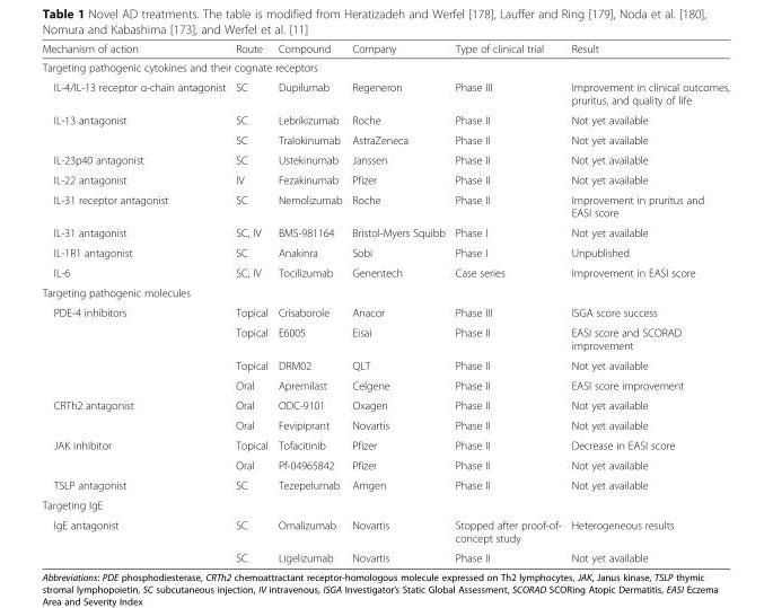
<table><thead><tr><td>Mechanism of action</td><td>Route</td><td>Compound</td><td>Company</td><td>Type of clinical trial</td><td>Result</td></tr></thead><tbody><tr><td colspan="6">Targeting pathogenic cytokines and their cognate receptors</td></tr><tr><td>IL-4/IL-13 receptor α-chain antagonist</td><td>SC</td><td>Dupilumab</td><td>Regeneron</td><td>Phase III</td><td>Improvement in clinical outcomes, pruritus, and quality of life</td></tr><tr><td rowspan="2">IL-13 antagonist</td><td>SC</td><td>Lebrikizumab</td><td>Roche</td><td>Phase II</td><td>Not yet available</td></tr><tr><td>SC</td><td>Tralokinumab</td><td>AstraZeneca</td><td>Phase II</td><td>Not yet available</td></tr><tr><td>IL-23p40 antagonist</td><td>SC</td><td>Ustekinumab</td><td>Janssen</td><td>Phase II</td><td>Not yet available</td></tr><tr><td>IL-22 antagonist</td><td>IV</td><td>Fezakinumab</td><td>Pfizer</td><td>Phase II</td><td>Not yet available</td></tr><tr><td>IL-31 receptor antagonist</td><td>SC</td><td>Nemolizumab</td><td>Roche</td><td>Phase II</td><td>Improvement in pruritus and EASI score</td></tr><tr><td>IL-31 antagonist</td><td>SC, IV</td><td>BMS-981164</td><td>Bristol-Myers Squibb</td><td>Phase I</td><td>Not yet available</td></tr><tr><td>IL-1R1 antagonist</td><td>SC</td><td>Anakinra</td><td>Sobi</td><td>Phase I</td><td>Unpublished</td></tr><tr><td>IL-6</td><td>SC, IV</td><td>Tocilizumab</td><td>Genentech</td><td>Case series</td><td>Improvement in EASI score</td></tr><tr><td colspan="6">Targeting pathogenic molecules</td></tr><tr><td rowspan="4">PDE-4 inhibitors</td><td>Topical</td><td>Crisaborole</td><td>Anacor</td><td>Phase III</td><td>ISGA score success</td></tr><tr><td>Topical</td><td>E6005</td><td>Eisai</td><td>Phase II</td><td>EASI score and SCORAD improvement</td></tr><tr><td>Topical</td><td>DRM02</td><td>QLT</td><td>Phase II</td><td>Not yet available</td></tr><tr><td>Oral</td><td>Apremilast</td><td>Celgene</td><td>Phase II</td><td>EASI score improvement</td></tr><tr><td rowspan="2">CRTh2 antagonist</td><td>Oral</td><td>ODC-9101</td><td>Oxagen</td><td>Phase II</td><td>Not yet available</td></tr><tr><td>Oral</td><td>Fevipiprant</td><td>Novartis</td><td>Phase II</td><td>Not yet available</td></tr><tr><td rowspan="2">JAK inhibitor</td><td>Topical</td><td>Tofacitinib</td><td>Pfizer</td><td>Phase II</td><td>Decrease in EASI score</td></tr><tr><td>Oral</td><td>Pf-04965842</td><td>Pfizer</td><td>Phase II</td><td>Not yet available</td></tr><tr><td>TSLP antagonist</td><td>SC</td><td>Tezepelumab</td><td>Amgen</td><td>Phase II</td><td>Not yet available</td></tr><tr><td colspan="6">Targeting IgE</td></tr><tr><td rowspan="2">IgE antagonist</td><td>SC</td><td>Omalizumab</td><td>Novartis</td><td>Stopped after proof-of- concept study</td><td>Heterogeneous results</td></tr><tr><td>SC</td><td>Ligelizumab</td><td>Novartis</td><td>Phase II</td><td>Not yet available</td></tr></tbody></table>